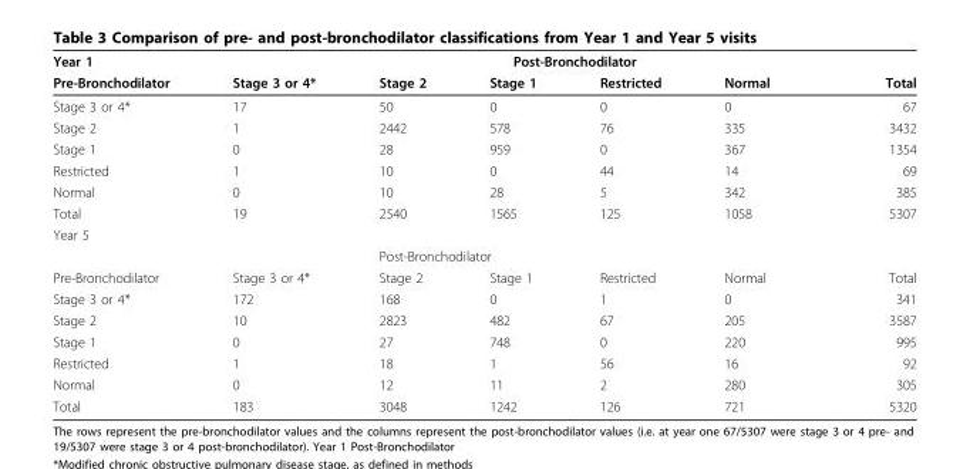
<table><thead><tr><td rowspan="2">Year 1 Pre-Bronchodilator</td><td colspan="6">Post-Bronchodilator</td></tr><tr><td>Stage 3 or 4*</td><td>Stage 2</td><td>Stage 1</td><td>Restricted</td><td>Normal</td><td>Total</td></tr></thead><tbody><tr><td>Stage 3 or 4*</td><td>17</td><td>50</td><td>0</td><td>0</td><td>0</td><td>67</td></tr><tr><td>Stage 2</td><td>1</td><td>2442</td><td>578</td><td>76</td><td>335</td><td>3432</td></tr><tr><td>Stage 1</td><td>0</td><td>28</td><td>959</td><td>0</td><td>367</td><td>1354</td></tr><tr><td>Restricted</td><td>1</td><td>10</td><td>0</td><td>44</td><td>14</td><td>69</td></tr><tr><td>Normal</td><td>0</td><td>10</td><td>28</td><td>5</td><td>342</td><td>385</td></tr><tr><td>Total</td><td>19</td><td>2540</td><td>1565</td><td>125</td><td>1058</td><td>5307</td></tr><tr><td colspan="7">Year 5</td></tr><tr><td></td><td></td><td colspan="3">Post-Bronchodilator</td><td></td><td></td></tr><tr><td>Pre-Bronchodilator</td><td>Stage 3 or 4*</td><td>Stage 2</td><td>Stage 1</td><td>Restricted</td><td>Normal</td><td>Total</td></tr><tr><td>Stage 3 or 4*</td><td>172</td><td>168</td><td>0</td><td>1</td><td>0</td><td>341</td></tr><tr><td>Stage 2</td><td>10</td><td>2823</td><td>482</td><td>67</td><td>205</td><td>3587</td></tr><tr><td>Stage 1</td><td>0</td><td>27</td><td>748</td><td>0</td><td>220</td><td>995</td></tr><tr><td>Restricted</td><td>1</td><td>18</td><td>1</td><td>56</td><td>16</td><td>92</td></tr><tr><td>Normal</td><td>0</td><td>12</td><td>11</td><td>2</td><td>280</td><td>305</td></tr><tr><td>Total</td><td>183</td><td>3048</td><td>1242</td><td>126</td><td>721</td><td>5320</td></tr></tbody></table>